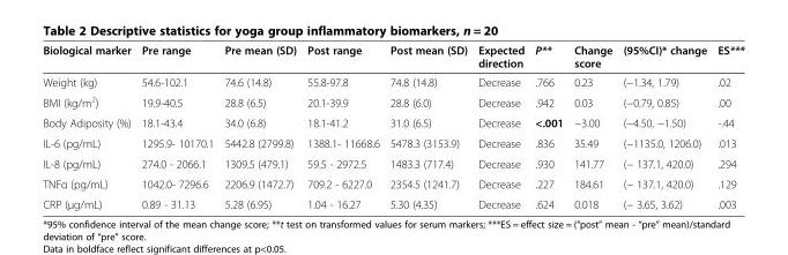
<table><thead><tr><td>Biological marker</td><td>Pre range</td><td>Pre mean (SD)</td><td>Post range</td><td>Post mean (SD)</td><td>Expected direction</td><td>P**</td><td>Change score</td><td>(95%CI)* change</td><td>ES***</td></tr></thead><tbody><tr><td>Weight (kg)</td><td>54.6-102.1</td><td>74.6 (14.8)</td><td>55.8-97.8</td><td>74.8 (14.8)</td><td>Decrease</td><td>.766</td><td>0.23</td><td>(−1.34, 1.79)</td><td>.02</td></tr><tr><td>BMI (kg/m<sup>2</sup>)</td><td>19.9-40.5</td><td>28.8 (6.5)</td><td>20.1-39.9</td><td>28.8 (6.0)</td><td>Decrease</td><td>.942</td><td>0.03</td><td>(−0.79, 0.85)</td><td>.00</td></tr><tr><td>Body Adiposity (%)</td><td>18.1-43.4</td><td>34.0 (6.8)</td><td>18.1-41.2</td><td>31.0 (6.5)</td><td>Decrease</td><td>&lt;.001</td><td>−3.00</td><td>(−4.50, −1.50)</td><td>-.44</td></tr><tr><td>IL-6 (pg/mL)</td><td>1295.9- 10170.1</td><td>5442.8 (2799.8)</td><td>1388.1- 11668.6</td><td>5478.3 (3153.9)</td><td>Decrease</td><td>.836</td><td>35.49</td><td>(−1135.0, 1206.0)</td><td>.013</td></tr><tr><td>IL-8 (pg/mL)</td><td>274.0 - 2066.1</td><td>1309.5 (479.1)</td><td>59.5 - 2972.5</td><td>1483.3 (717.4)</td><td>Decrease</td><td>.930</td><td>141.77</td><td>(− 137.1, 420.0)</td><td>.294</td></tr><tr><td>TNFα (pg/mL)</td><td>1042.0- 7296.6</td><td>2206.9 (1472.7)</td><td>709.2 - 6227.0</td><td>2354.5 (1241.7)</td><td>Decrease</td><td>.227</td><td>184.61</td><td>(− 137.1, 420.0)</td><td>.129</td></tr><tr><td>CRP (μg/mL)</td><td>0.89 - 31.13</td><td>5.28 (6.95)</td><td>1.04 - 16.27</td><td>5.30 (4.35)</td><td>Decrease</td><td>.624</td><td>0.018</td><td>(− 3.65, 3.62)</td><td>.003</td></tr></tbody></table>